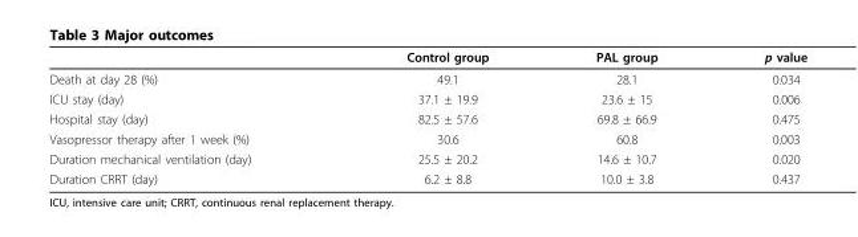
<table><thead><tr><td></td><td>Control group</td><td>PAL group</td><td>p value</td></tr></thead><tbody><tr><td>Death at day 28 (%)</td><td>49.1</td><td>28.1</td><td>0.034</td></tr><tr><td>ICU stay (day)</td><td>37.1 ± 19.9</td><td>23.6 ± 15</td><td>0.006</td></tr><tr><td>Hospital stay (day)</td><td>82.5 ± 57.6</td><td>69.8 ± 66.9</td><td>0.475</td></tr><tr><td>Vasopressor therapy after 1 week (%)</td><td>30.6</td><td>60.8</td><td>0.003</td></tr><tr><td>Duration mechanical ventilation (day)</td><td>25.5 ± 20.2</td><td>14.6 ± 10.7</td><td>0.020</td></tr><tr><td>Duration CRRT (day)</td><td>6.2 ± 8.8</td><td>10.0 ± 3.8</td><td>0.437</td></tr></tbody></table>